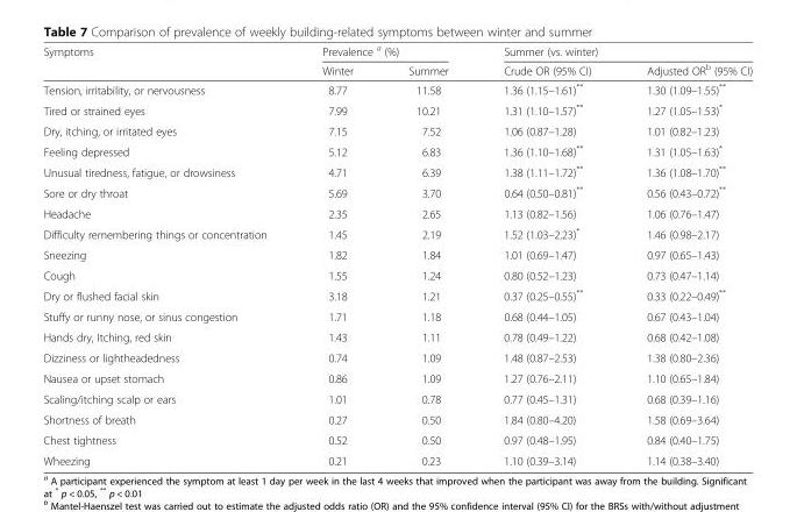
<table><thead><tr><td rowspan="2">Symptoms</td><td colspan="2">Prevalence <sup>a</sup> (%)</td><td colspan="2">Summer (vs. winter)</td></tr><tr><td>Winter</td><td>Summer</td><td>Crude OR (95% CI)</td><td>Adjusted OR<sup>b</sup> (95% CI)</td></tr></thead><tbody><tr><td>Tension, irritability, or nervousness</td><td>8.77</td><td>11.58</td><td>1.36 (1.15–1.61)**</td><td>1.30 (1.09–1.55)**</td></tr><tr><td>Tired or strained eyes</td><td>7.99</td><td>10.21</td><td>1.31 (1.10–1.57)**</td><td>1.27 (1.05–1.53)*</td></tr><tr><td>Dry, itching, or irritated eyes</td><td>7.15</td><td>7.52</td><td>1.06 (0.87–1.28)</td><td>1.01 (0.82–1.23)</td></tr><tr><td>Feeling depressed</td><td>5.12</td><td>6.83</td><td>1.36 (1.10–1.68)**</td><td>1.31 (1.05–1.63)*</td></tr><tr><td>Unusual tiredness, fatigue, or drowsiness</td><td>4.71</td><td>6.39</td><td>1.38 (1.11–1.72)**</td><td>1.36 (1.08–1.70)**</td></tr><tr><td>Sore or dry throat</td><td>5.69</td><td>3.70</td><td>0.64 (0.50–0.81)**</td><td>0.56 (0.43–0.72)**</td></tr><tr><td>Headache</td><td>2.35</td><td>2.65</td><td>1.13 (0.82–1.56)</td><td>1.06 (0.76–1.47)</td></tr><tr><td>Difficulty remembering things or concentration</td><td>1.45</td><td>2.19</td><td>1.52 (1.03–2.23)*</td><td>1.46 (0.98–2.17)</td></tr><tr><td>Sneezing</td><td>1.82</td><td>1.84</td><td>1.01 (0.69–1.47)</td><td>0.97 (0.65–1.43)</td></tr><tr><td>Cough</td><td>1.55</td><td>1.24</td><td>0.80 (0.52–1.23)</td><td>0.73 (0.47–1.14)</td></tr><tr><td>Dry or flushed facial skin</td><td>3.18</td><td>1.21</td><td>0.37 (0.25–0.55)**</td><td>0.33 (0.22–0.49)**</td></tr><tr><td>Stuffy or runny nose, or sinus congestion</td><td>1.71</td><td>1.18</td><td>0.68 (0.44–1.05)</td><td>0.67 (0.43–1.04)</td></tr><tr><td>Hands dry, Itching, red skin</td><td>1.43</td><td>1.11</td><td>0.78 (0.49–1.22)</td><td>0.68 (0.42–1.08)</td></tr><tr><td>Dizziness or lightheadedness</td><td>0.74</td><td>1.09</td><td>1.48 (0.87–2.53)</td><td>1.38 (0.80–2.36)</td></tr><tr><td>Nausea or upset stomach</td><td>0.86</td><td>1.09</td><td>1.27 (0.76–2.11)</td><td>1.10 (0.65–1.84)</td></tr><tr><td>Scaling/itching scalp or ears</td><td>1.01</td><td>0.78</td><td>0.77 (0.45–1.31)</td><td>0.68 (0.39–1.16)</td></tr><tr><td>Shortness of breath</td><td>0.27</td><td>0.50</td><td>1.84 (0.80–4.20)</td><td>1.58 (0.69–3.64)</td></tr><tr><td>Chest tightness</td><td>0.52</td><td>0.50</td><td>0.97 (0.48–1.95)</td><td>0.84 (0.40–1.75)</td></tr><tr><td>Wheezing</td><td>0.21</td><td>0.23</td><td>1.10 (0.39–3.14)</td><td>1.14 (0.38–3.40)</td></tr></tbody></table>